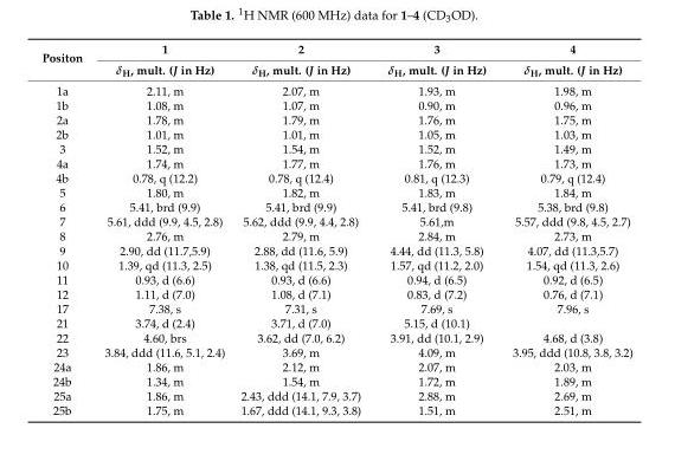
<table><thead><tr><td rowspan="2">Positon</td><td rowspan="2">1 δH, mult. (J in Hz)</td><td rowspan="2">2 δH, mult. (J in Hz)</td><td rowspan="2">3 δH, mult. (J in Hz)</td><td rowspan="2">4 δH, mult. (J in Hz)</td></tr><tr></tr></thead><tbody><tr><td>1a</td><td>2.11, m</td><td>2.07, m</td><td>1.93, m</td><td>1.98, m</td></tr><tr><td>1b</td><td>1.08, m</td><td>1.07, m</td><td>0.90, m</td><td>0.96, m</td></tr><tr><td>2a</td><td>1.78, m</td><td>1.79, m</td><td>1.76, m</td><td>1.75, m</td></tr><tr><td>2b</td><td>1.01, m</td><td>1.01, m</td><td>1.05, m</td><td>1.03, m</td></tr><tr><td>3</td><td>1.52, m</td><td>1.54, m</td><td>1.52, m</td><td>1.49, m</td></tr><tr><td>4a</td><td>1.74, m</td><td>1.77, m</td><td>1.76, m</td><td>1.73, m</td></tr><tr><td>4b</td><td>0.78, q (12.2)</td><td>0.78, q (12.4)</td><td>0.81, q (12.3)</td><td>0.79, q (12.4)</td></tr><tr><td>5</td><td>1.80, m</td><td>1.82, m</td><td>1.83, m</td><td>1.84, m</td></tr><tr><td>6</td><td>5.41, brd (9.9)</td><td>5.41, brd (9.9)</td><td>5.41, brd (9.8)</td><td>5.38, brd (9.8)</td></tr><tr><td>7</td><td>5.61, ddd (9.9, 4.5, 2.8)</td><td>5.62, ddd (9.9, 4.4, 2.8)</td><td>5.61,m</td><td>5.57, ddd (9.8, 4.5, 2.7)</td></tr><tr><td>8</td><td>2.76, m</td><td>2.79, m</td><td>2.84, m</td><td>2.73, m</td></tr><tr><td>9</td><td>2.90, dd (11.7,5.9)</td><td>2.88, dd (11.6, 5.9)</td><td>4.44, dd (11.3, 5.8)</td><td>4.07, dd (11.3,5.7)</td></tr><tr><td>10</td><td>1.39, qd (11.3, 2.5)</td><td>1.38, qd (11.5, 2.3)</td><td>1.57, qd (11.2, 2.0)</td><td>1.54, qd (11.3, 2.6)</td></tr><tr><td>11</td><td>0.93, d (6.6)</td><td>0.93, d (6.6)</td><td>0.94, d (6.5)</td><td>0.92, d (6.5)</td></tr><tr><td>12</td><td>1.11, d (7.0)</td><td>1.08, d (7.1)</td><td>0.83, d (7.2)</td><td>0.76, d (7.1)</td></tr><tr><td>17</td><td>7.38, s</td><td>7.31, s</td><td>7.69, s</td><td>7.96, s</td></tr><tr><td>21</td><td>3.74, d (2.4)</td><td>3.71, d (7.0)</td><td>5.15, d (10.1)</td><td></td></tr><tr><td>22</td><td>4.60, brs</td><td>3.62, dd (7.0, 6.2)</td><td>3.91, dd (10.1, 2.9)</td><td>4.68, d (3.8)</td></tr><tr><td>23</td><td>3.84, ddd (11.6, 5.1, 2.4)</td><td>3.69, m</td><td>4.09, m</td><td>3.95, ddd (10.8, 3.8, 3.2)</td></tr><tr><td>24a</td><td>1.86, m</td><td>2.12, m</td><td>2.07, m</td><td>2.03, m</td></tr><tr><td>24b</td><td>1.34, m</td><td>1.54, m</td><td>1.72, m</td><td>1.89, m</td></tr><tr><td>25a</td><td>1.86, m</td><td>2.43, ddd (14.1, 7.9, 3.7)</td><td>2.88, m</td><td>2.69, m</td></tr><tr><td>25b</td><td>1.75, m</td><td>1.67, ddd (14.1, 9.3, 3.8)</td><td>1.51, m</td><td>2.51, m</td></tr></tbody></table>